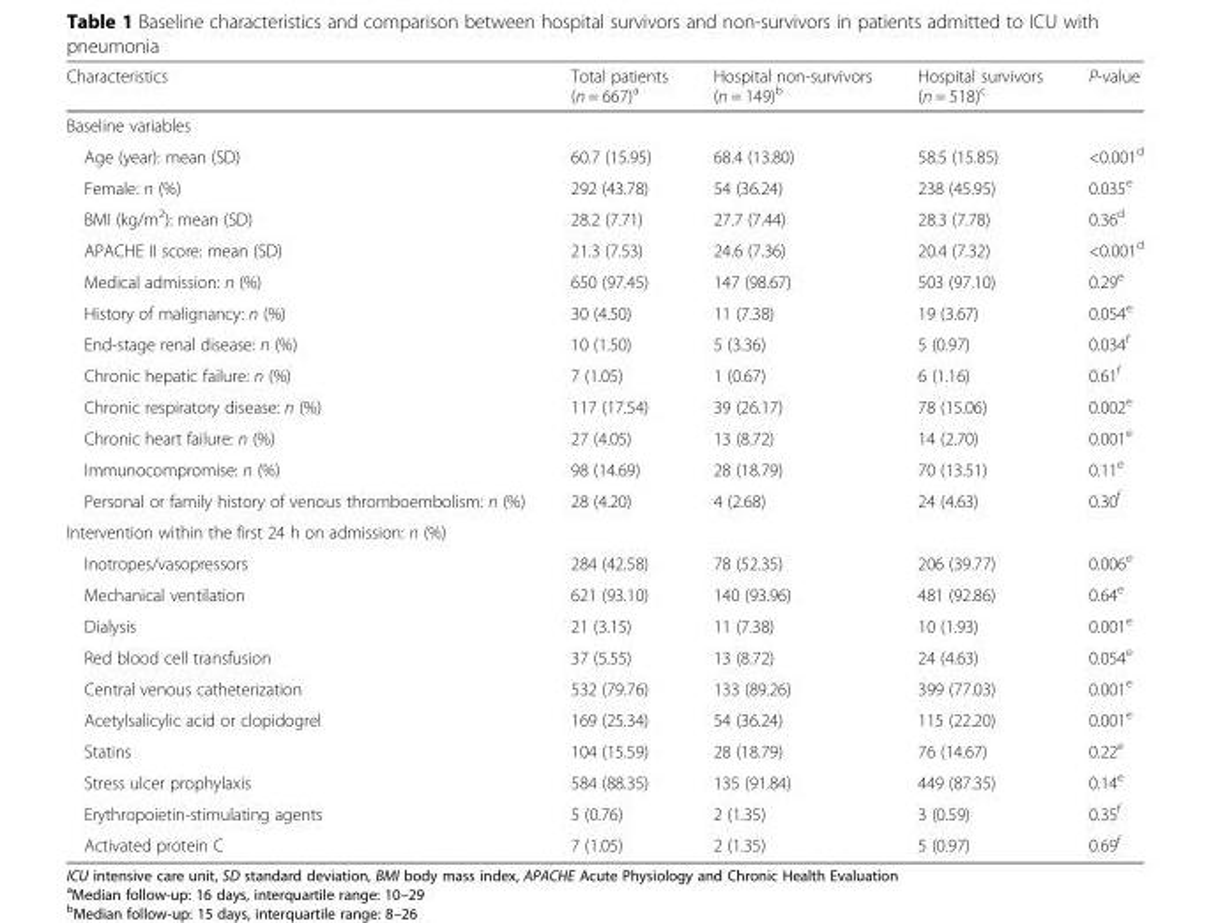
<table><thead><tr><td>Characteristics</td><td>Total patients (n = 667)<sup>a</sup></td><td>Hospital non-survivors (n = 149)<sup>b</sup></td><td>Hospital survivors (n = 518)<sup>c</sup></td><td>P-value</td></tr></thead><tbody><tr><td colspan="5">Baseline variables</td></tr><tr><td>Age (year): mean (SD)</td><td>60.7 (15.95)</td><td>68.4 (13.80)</td><td>58.5 (15.85)</td><td>&lt;0.001<sup>d</sup></td></tr><tr><td>Female: n (%)</td><td>292 (43.78)</td><td>54 (36.24)</td><td>238 (45.95)</td><td>0.035<sup>e</sup></td></tr><tr><td>BMI (kg/m<sup>2</sup>): mean (SD)</td><td>28.2 (7.71)</td><td>27.7 (7.44)</td><td>28.3 (7.78)</td><td>0.36<sup>d</sup></td></tr><tr><td>APACHE II score: mean (SD)</td><td>21.3 (7.53)</td><td>24.6 (7.36)</td><td>20.4 (7.32)</td><td>&lt;0.001<sup>d</sup></td></tr><tr><td>Medical admission: n (%)</td><td>650 (97.45)</td><td>147 (98.67)</td><td>503 (97.10)</td><td>0.29<sup>e</sup></td></tr><tr><td>History of malignancy: n (%)</td><td>30 (4.50)</td><td>11 (7.38)</td><td>19 (3.67)</td><td>0.054<sup>e</sup></td></tr><tr><td>End-stage renal disease: n (%)</td><td>10 (1.50)</td><td>5 (3.36)</td><td>5 (0.97)</td><td>0.034<sup>f</sup></td></tr><tr><td>Chronic hepatic failure: n (%)</td><td>7 (1.05)</td><td>1 (0.67)</td><td>6 (1.16)</td><td>0.61<sup>f</sup></td></tr><tr><td>Chronic respiratory disease: n (%)</td><td>117 (17.54)</td><td>39 (26.17)</td><td>78 (15.06)</td><td>0.002<sup>e</sup></td></tr><tr><td>Chronic heart failure: n (%)</td><td>27 (4.05)</td><td>13 (8.72)</td><td>14 (2.70)</td><td>0.001<sup>e</sup></td></tr><tr><td>Immunocompromise: n (%)</td><td>98 (14.69)</td><td>28 (18.79)</td><td>70 (13.51)</td><td>0.11<sup>e</sup></td></tr><tr><td>Personal or family history of venous thromboembolism: n (%)</td><td>28 (4.20)</td><td>4 (2.68)</td><td>24 (4.63)</td><td>0.30<sup>f</sup></td></tr><tr><td colspan="5">Intervention within the first 24 h on admission: n (%)</td></tr><tr><td>Inotropes/vasopressors</td><td>284 (42.58)</td><td>78 (52.35)</td><td>206 (39.77)</td><td>0.006<sup>e</sup></td></tr><tr><td>Mechanical ventilation</td><td>621 (93.10)</td><td>140 (93.96)</td><td>481 (92.86)</td><td>0.64<sup>e</sup></td></tr><tr><td>Dialysis</td><td>21 (3.15)</td><td>11 (7.38)</td><td>10 (1.93)</td><td>0.001<sup>e</sup></td></tr><tr><td>Red blood cell transfusion</td><td>37 (5.55)</td><td>13 (8.72)</td><td>24 (4.63)</td><td>0.054<sup>e</sup></td></tr><tr><td>Central venous catheterization</td><td>532 (79.76)</td><td>133 (89.26)</td><td>399 (77.03)</td><td>0.001<sup>e</sup></td></tr><tr><td>Acetylsalicylic acid or clopidogrel</td><td>169 (25.34)</td><td>54 (36.24)</td><td>115 (22.20)</td><td>0.001<sup>e</sup></td></tr><tr><td>Statins</td><td>104 (15.59)</td><td>28 (18.79)</td><td>76 (14.67)</td><td>0.22<sup>e</sup></td></tr><tr><td>Stress ulcer prophylaxis</td><td>584 (88.35)</td><td>135 (91.84)</td><td>449 (87.35)</td><td>0.14<sup>e</sup></td></tr><tr><td>Erythropoietin-stimulating agents</td><td>5 (0.76)</td><td>2 (1.35)</td><td>3 (0.59)</td><td>0.35<sup>f</sup></td></tr><tr><td>Activated protein C</td><td>7 (1.05)</td><td>2 (1.35)</td><td>5 (0.97)</td><td>0.69<sup>f</sup></td></tr></tbody></table>